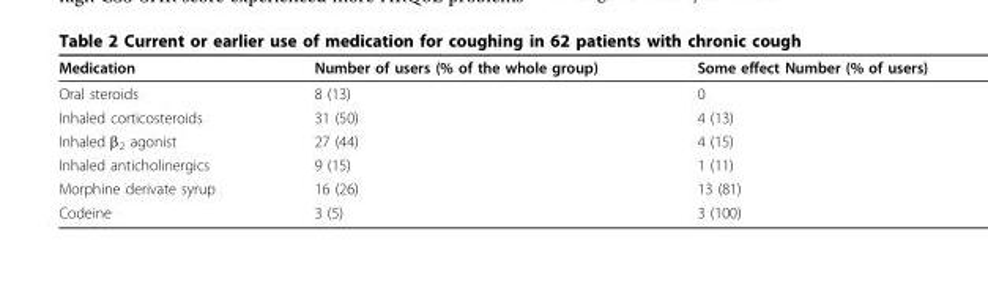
<table><thead><tr><td>Medication</td><td>Number of users (% of the whole group)</td><td>Some effect Number (% of users)</td></tr></thead><tbody><tr><td>Oral steroids</td><td>8 (13)</td><td>0</td></tr><tr><td>Inhaled corticosteroids</td><td>31 (50)</td><td>4 (13)</td></tr><tr><td>Inhaled β<sub>2</sub> agonist</td><td>27 (44)</td><td>4 (15)</td></tr><tr><td>Inhaled anticholinergics</td><td>9 (15)</td><td>1 (11)</td></tr><tr><td>Morphine derivate syrup</td><td>16 (26)</td><td>13 (81)</td></tr><tr><td>Codeine</td><td>3 (5)</td><td>3 (100)</td></tr></tbody></table>